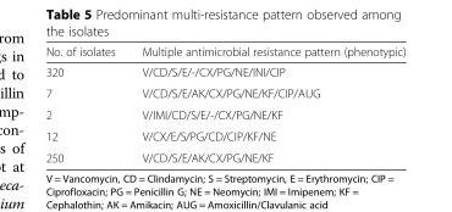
<table><thead><tr><td>No. of isolates</td><td>Multiple antimicrobial resistance pattern (phenotypic)</td></tr></thead><tbody><tr><td>320</td><td>V/CD/S/E/-/CX/PG/NE/INI/CIP</td></tr><tr><td>7</td><td>V/CD/S/E/AK/CX/PG/NE/KF/CIP/AUG</td></tr><tr><td>2</td><td>V/IMI/CD/S/E/-/CX/PG/NE/KF</td></tr><tr><td>12</td><td>V/CX/E/S/PG/CD/CIP/KF/NE</td></tr><tr><td>250</td><td>V/CD/S/E/AK/CX/PG/NE/KF</td></tr></tbody></table>